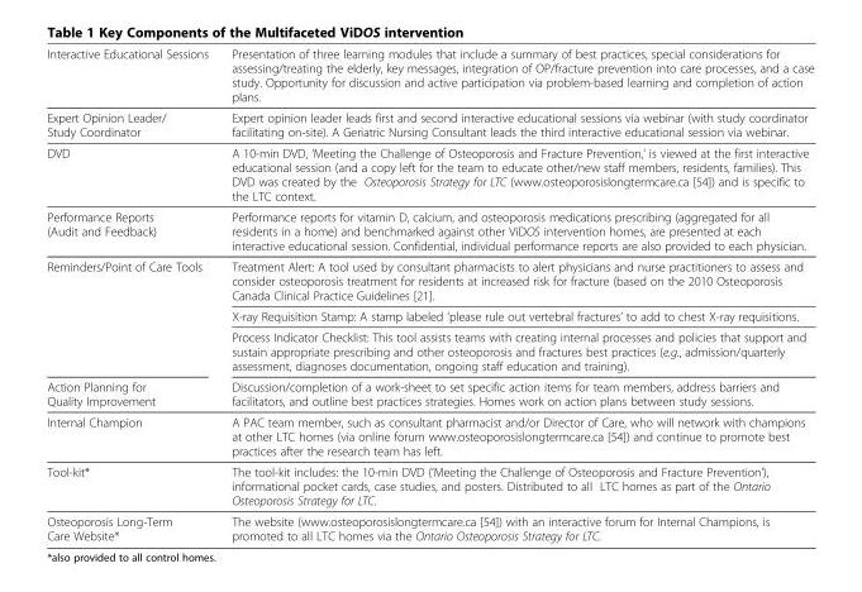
<table><tbody><tr><td>Interactive Educational Sessions</td><td>Presentation of three learning modules that include a summary of best practices, special considerations for assessing/treating the elderly, key messages, integration of OP/fracture prevention into care processes, and a case study. Opportunity for discussion and active participation via problem-based learning and completion of action plans.</td></tr><tr><td>Expert Opinion Leader/ Study Coordinator</td><td>Expert opinion leader leads first and second interactive educational sessions via webinar (with study coordinator facilitating on-site). A Geriatric Nursing Consultant leads the third interactive educational session via webinar.</td></tr><tr><td>DVD</td><td>A 10-min DVD, ‘Meeting the Challenge of Osteoporosis and Fracture Prevention,’ is viewed at the first interactive educational session (and a copy left for the team to educate other/new staff members, residents, families). This DVD was created by the Osteoporosis Strategy for LTC (www.osteoporosislongtermcare.ca [54]) and is specific to the LTC context.</td></tr><tr><td>Performance Reports (Audit and Feedback)</td><td>Performance reports for vitamin D, calcium, and osteoporosis medications prescribing (aggregated for all residents in a home) and benchmarked against other ViDOS intervention homes, are presented at each interactive educational session. Confidential, individual performance reports are also provided to each physician.</td></tr><tr><td rowspan="3">Reminders/Point of Care Tools</td><td>Treatment Alert: A tool used by consultant pharmacists to alert physicians and nurse practitioners to assess and consider osteoporosis treatment for residents at increased risk for fracture (based on the 2010 Osteoporosis Canada Clinical Practice Guidelines [21].</td></tr><tr><td>X-ray Requisition Stamp: A stamp labeled ‘please rule out vertebral fractures’ to add to chest X-ray requisitions.</td></tr><tr><td>Process Indicator Checklist: This tool assists teams with creating internal processes and policies that support and sustain appropriate prescribing and other osteoporosis and fractures best practices (e.g., admission/quarterly assessment, diagnoses documentation, ongoing staff education and training).</td></tr><tr><td>Action Planning for Quality Improvement</td><td>Discussion/completion of a work-sheet to set specific action items for team members, address barriers and facilitators, and outline best practices strategies. Homes work on action plans between study sessions.</td></tr><tr><td>Internal Champion</td><td>A PAC team member, such as consultant pharmacist and/or Director of Care, who will network with champions at other LTC homes (via online forum www.osteoporosislongtermcare.ca [54]) and continue to promote best practices after the research team has left.</td></tr><tr><td>Tool-kit*</td><td>The tool-kit includes: the 10-min DVD (‘Meeting the Challenge of Osteoporosis and Fracture Prevention’), informational pocket cards, case studies, and posters. Distributed to all LTC homes as part of the Ontario Osteoporosis Strategy for LTC.</td></tr><tr><td>Osteoporosis Long-Term Care Website*</td><td>The website (www.osteoporosislongtermcare.ca [54]) with an interactive forum for Internal Champions, is promoted to all LTC homes via the Ontario Osteoporosis Strategy for LTC.</td></tr></tbody></table>